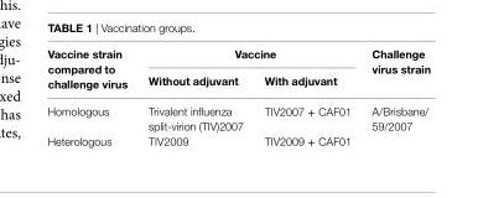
<table><thead><tr><td rowspan="2">Vaccine strain compared to challenge virus</td><td colspan="2">Vaccine</td><td rowspan="2">challenge virus strain</td></tr><tr><td>Without adjuvant</td><td>With adjuvant</td></tr></thead><tbody><tr><td>Homologous</td><td>Trivalent influenza split-virion (TIV)2007</td><td>TIV2007 + CAF01</td><td rowspan="2">A/Brisbane/ 59/2007</td></tr><tr><td>Heterologous</td><td>TIV2009</td><td>TIV2009 + CAF01</td></tr></tbody></table>